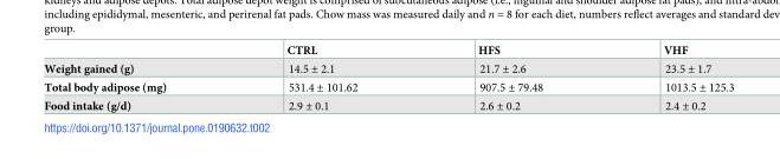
<table><thead><tr><td></td><td>CTRL</td><td>HFS</td><td>VHF</td></tr></thead><tbody><tr><td>Weight gained (g)</td><td>14.5 ± 2.1</td><td>21.7 ± 2.6</td><td>23.5 ± 1.7</td></tr><tr><td>Total body adipose (mg)</td><td>531.4 ± 101.62</td><td>907.5 ± 79.48</td><td>1013.5 ± 125.3</td></tr><tr><td>Food intake (g/d)</td><td>2.9 ± 0.1</td><td>2.6 ± 0.2</td><td>2.4 ± 0.2</td></tr></tbody></table>